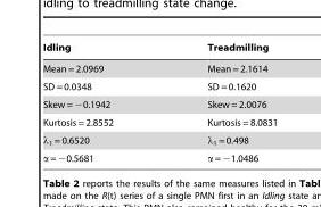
<table><thead><tr><td>Idling</td><td>Treadmilling</td></tr></thead><tbody><tr><td>Mean = 2.0969</td><td>Mean = 2.1614</td></tr><tr><td>SD = 0.0348</td><td>SD = 0.1620</td></tr><tr><td>Skew = −0.1942</td><td>Skew = 2.0076</td></tr><tr><td>Kurtosis = 2.8552</td><td>Kurtosis = 8.0831</td></tr><tr><td>λ<sub>1</sub> = 0.6520</td><td>λ<sub>1</sub> = 0.498</td></tr><tr><td>α = −0.5681</td><td>α = −1.0486</td></tr></tbody></table>